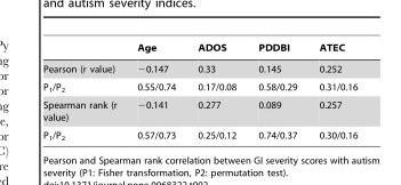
<table><thead><tr><td></td><td>Age</td><td>ADOS</td><td>PDDBI</td><td>ATEC</td></tr></thead><tbody><tr><td>Pearson (r value)</td><td>−0.147</td><td>0.33</td><td>0.145</td><td>0.252</td></tr><tr><td>P<sub>1</sub>/P<sub>2</sub></td><td>0.55/0.74</td><td>0.17/0.08</td><td>0.58/0.29</td><td>0.31/0.16</td></tr><tr><td>Spearman rank (r value)</td><td>−0.141</td><td>0.277</td><td>0.089</td><td>0.257</td></tr><tr><td>P<sub>1</sub>/P<sub>2</sub></td><td>0.57/0.73</td><td>0.25/0.12</td><td>0.74/0.37</td><td>0.30/0.16</td></tr></tbody></table>